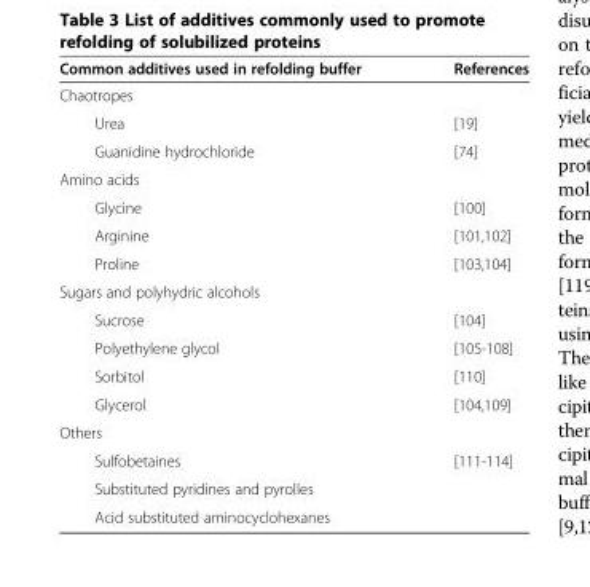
<table><thead><tr><td>Common additives used in refolding buffer</td><td>References</td></tr></thead><tbody><tr><td colspan="2">Chaotropes</td></tr><tr><td>Urea</td><td>[19]</td></tr><tr><td>Guanidine hydrochloride</td><td>[74]</td></tr><tr><td colspan="2">Amino acids</td></tr><tr><td>Glycine</td><td>[100]</td></tr><tr><td>Arginine</td><td>[101,102]</td></tr><tr><td>Proline</td><td>[103,104]</td></tr><tr><td colspan="2">Sugars and polyhydric alcohols</td></tr><tr><td>Sucrose</td><td>[104]</td></tr><tr><td>Polyethylene glycol</td><td>[105-108]</td></tr><tr><td>Sorbitol</td><td>[110]</td></tr><tr><td>Glycerol</td><td>[104,109]</td></tr><tr><td colspan="2">Others</td></tr><tr><td>Sulfobetaines</td><td>[111-114]</td></tr><tr><td colspan="2">Substituted pyridines and pyrolles</td></tr><tr><td>Acid substituted aminocyclohexanes</td><td></td></tr></tbody></table>